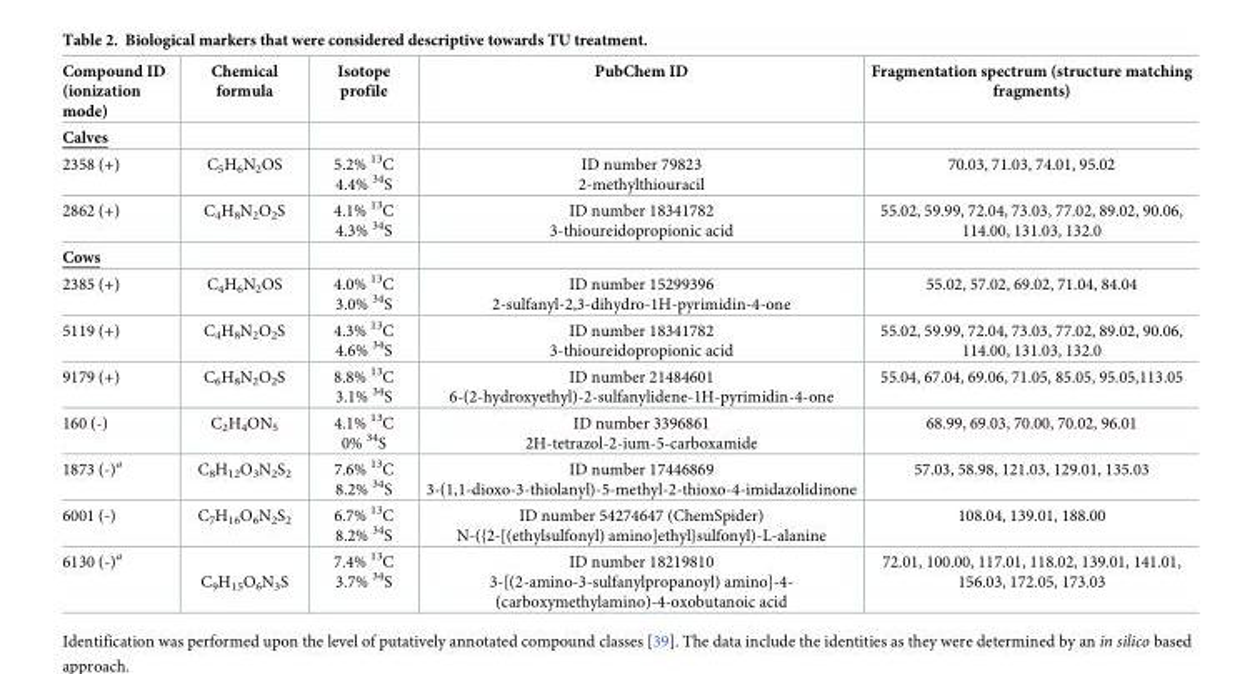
<table><thead><tr><td>Compound ID (ionization mode)</td><td>Chemical formula</td><td>Isotope profile</td><td>PubChem ID</td><td>Fragmentation spectrum (structure matching fragments)</td></tr></thead><tbody><tr><td colspan="5">Calves</td></tr><tr><td>2358 (+)</td><td>C<sub>5</sub>H<sub>6</sub>N<sub>2</sub>OS</td><td>5.2% <sup>13</sup>C 4.4% <sup>34</sup>S</td><td>ID number 79823 2-methylthiouracil</td><td>70.03, 71.03, 74.01, 95.02</td></tr><tr><td>2862 (+)</td><td>C<sub>4</sub>H<sub>8</sub>N<sub>2</sub>O<sub>2</sub>S</td><td>4.1% <sup>13</sup>C 4.3% <sup>34</sup>S</td><td>ID number 18341782 3-thioureidopropionic acid</td><td>55.02, 59.99, 72.04, 73.03, 77.02, 89.02, 90.06, 114.00, 131.03, 132.0</td></tr><tr><td colspan="5">Cows</td></tr><tr><td>2385 (+)</td><td>C<sub>4</sub>H<sub>6</sub>N<sub>2</sub>OS</td><td>4.0% <sup>13</sup>C 3.0% <sup>34</sup>S</td><td>ID number 15299396 2-sulfanyl-2,3-dihydro-1H-pyrimidin-4-one</td><td>55.02, 57.02, 69.02, 71.04, 84.04</td></tr><tr><td>5119 (+)</td><td>C<sub>4</sub>H<sub>8</sub>N<sub>2</sub>O<sub>2</sub>S</td><td>4.3% <sup>13</sup>C 4.6% <sup>34</sup>S</td><td>ID number 18341782 3-thioureidopropionic acid</td><td>55.02, 59.99, 72.04, 73.03, 77.02, 89.02, 90.06, 114.00, 131.03, 132.0</td></tr><tr><td>9179 (+)</td><td>C<sub>6</sub>H<sub>8</sub>N<sub>2</sub>O<sub>2</sub>S</td><td>8.8% <sup>13</sup>C 3.1% <sup>34</sup>S</td><td>ID number 21484601 6-(2-hydroxyethyl)-2-sulfanylidene-1H-pyrimidin-4-one</td><td>55.04, 67.04, 69.06, 71.05, 85.05, 95.05,113.05</td></tr><tr><td>160 (-)</td><td>C<sub>2</sub>H<sub>4</sub>ON<sub>5</sub></td><td>4.1% <sup>13</sup>C 0% <sup>34</sup>S</td><td>ID number 3396861 2H-tetrazol-2-ium-5-carboxamide</td><td>68.99, 69.03, 70.00, 70.02, 96.01</td></tr><tr><td>1873 (-)<sup>a</sup></td><td>C<sub>8</sub>H<sub>12</sub>O<sub>3</sub>N<sub>2</sub>S<sub>2</sub></td><td>7.6% <sup>13</sup>C 8.2% <sup>34</sup>S</td><td>ID number 17446869 3-(1,1-dioxo-3-thiolanyl)-5-methyl-2-thioxo-4-imidazolidinone</td><td>57.03, 58.98, 121.03, 129.01, 135.03</td></tr><tr><td>6001 (-)</td><td>C<sub>7</sub>H<sub>16</sub>O<sub>6</sub>N<sub>2</sub>S<sub>2</sub></td><td>6.7% <sup>13</sup>C 8.2% <sup>34</sup>S</td><td>ID number 54274647 (ChemSpider) N-({2-[(ethylsulfonyl) amino]ethyl}sulfonyl)-L-alanine</td><td>108.04, 139.01, 188.00</td></tr><tr><td>6130 (-)<sup>a</sup></td><td>C<sub>9</sub>H<sub>15</sub>O<sub>6</sub>N<sub>3</sub>S</td><td>7.4% <sup>13</sup>C 3.7% <sup>34</sup>S</td><td>ID number 18219810 3-[(2-amino-3-sulfanylpropanoyl) amino]-4- (carboxymethylamino)-4-oxobutanoic acid</td><td>72.01, 100.00, 117.01, 118.02, 139.01, 141.01, 156.03, 172.05, 173.03</td></tr></tbody></table>